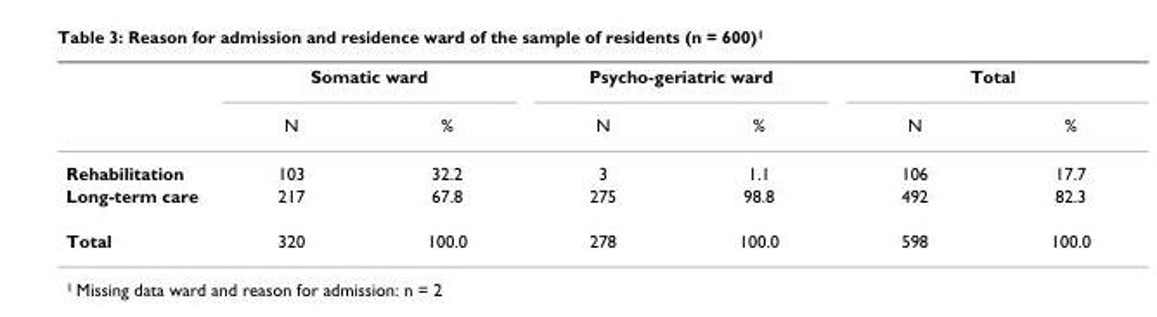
<table><thead><tr><td rowspan="2"></td><td colspan="2">Somatic ward</td><td colspan="2">Psycho-geriatric ward</td><td colspan="2">Total</td></tr><tr><td>N</td><td>%</td><td>N</td><td>%</td><td>N</td><td>%</td></tr></thead><tbody><tr><td>Rehabilitation</td><td>103</td><td>32.2</td><td>3</td><td>1.1</td><td>106</td><td>17.7</td></tr><tr><td>Long-term care</td><td>217</td><td>67.8</td><td>275</td><td>98.8</td><td>492</td><td>82.3</td></tr><tr><td>Total</td><td>320</td><td>100.0</td><td>278</td><td>100.0</td><td>598</td><td>100.0</td></tr></tbody></table>